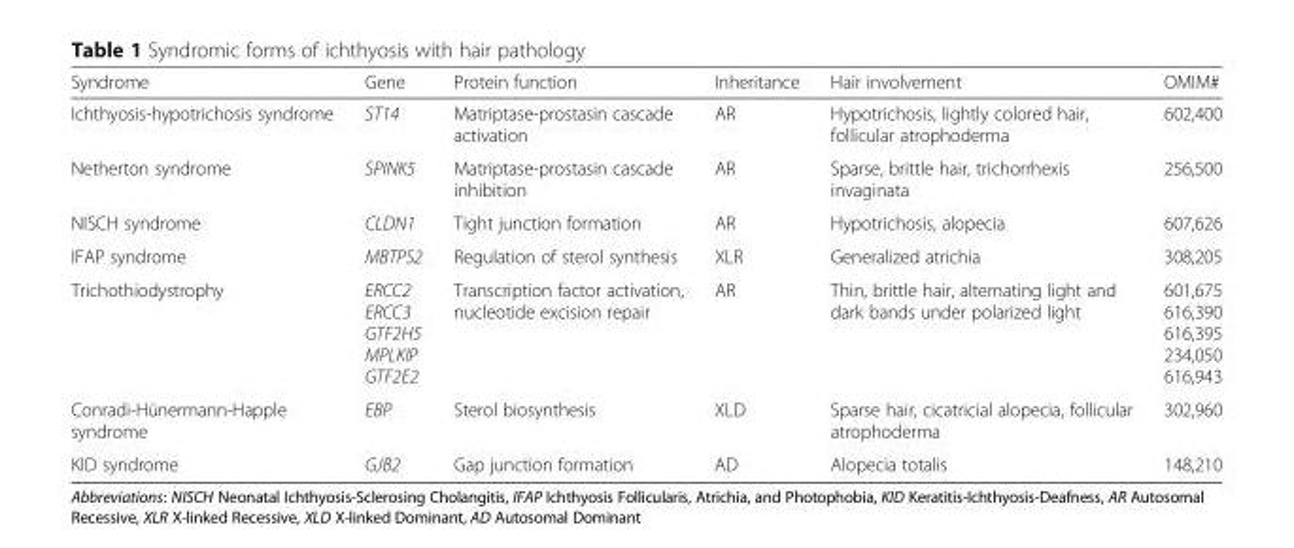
<table><thead><tr><td>Syndrome</td><td>Gene</td><td>Protein function</td><td>Inheritance</td><td>Hair involvement</td><td>OMIM#</td></tr></thead><tbody><tr><td>Ichthyosis-hypotrichosis syndrome</td><td>ST14</td><td>Matriptase-prostasin cascade activation</td><td>AR</td><td>Hypotrichosis, lightly colored hair, follicular atrophoderma</td><td>602,400</td></tr><tr><td>Netherton syndrome</td><td>SPINK5</td><td>Matriptase-prostasin cascade inhibition</td><td>AR</td><td>Sparse, brittle hair, trichorrhexis invaginata</td><td>256,500</td></tr><tr><td>NISCH syndrome</td><td>CLDN1</td><td>Tight junction formation</td><td>AR</td><td>Hypotrichosis, alopecia</td><td>607,626</td></tr><tr><td>IFAP syndrome</td><td>MBTPS2</td><td>Regulation of sterol synthesis</td><td>XLR</td><td>Generalized atrichia</td><td>308,205</td></tr><tr><td>Trichothiodystrophy</td><td>ERCC2 ERCC3 GTF2H5 MPLKIP GTF2E2</td><td>Transcription factor activation, nucleotide excision repair</td><td>AR</td><td>Thin, brittle hair, alternating light and dark bands under polarized light</td><td>601,675 616,390 616,395 234,050 616,943</td></tr><tr><td>Conradi-Hünermann-Happle syndrome</td><td>EBP</td><td>Sterol biosynthesis</td><td>XLD</td><td>Sparse hair, cicatricial alopecia, follicular atrophoderma</td><td>302,960</td></tr><tr><td>KID syndrome</td><td>GJB2</td><td>Gap junction formation</td><td>AD</td><td>Alopecia totalis</td><td>148,210</td></tr></tbody></table>